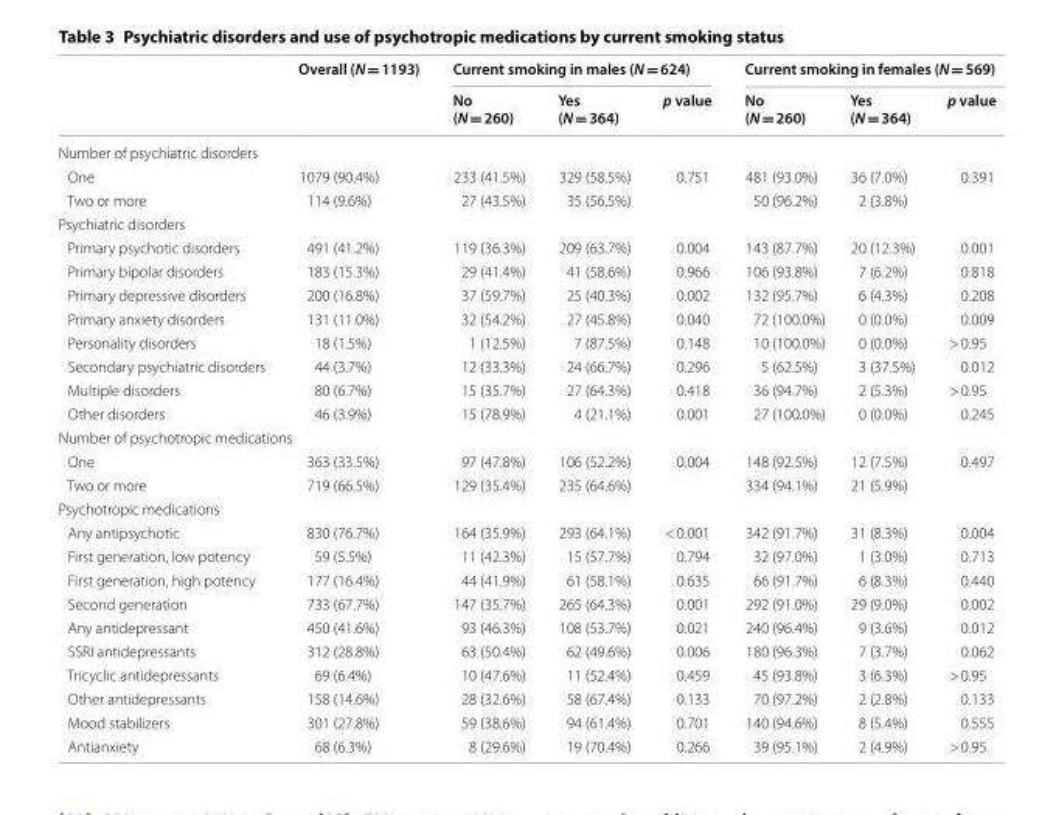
<table><thead><tr><td rowspan="2"></td><td rowspan="2">Overall (N = 1193)</td><td colspan="3">Current smoking in males (N = 624)</td><td colspan="3">Current smoking in females (N = 569)</td></tr><tr><td>No (N = 260)</td><td>Yes (N = 364)</td><td>p value</td><td>No (N = 260)</td><td>Yes (N = 364)</td><td>p value</td></tr></thead><tbody><tr><td colspan="8">Number of psychiatric disorders</td></tr><tr><td>One</td><td>1079 (90.4%)</td><td>233 (41.5%)</td><td>329 (58.5%)</td><td>0.751</td><td>481 (93.0%)</td><td>36 (7.0%)</td><td>0.391</td></tr><tr><td>Two or more</td><td>114 (9.6%)</td><td>27 (43.5%)</td><td>35 (56.5%)</td><td></td><td>50 (96.2%)</td><td>2 (3.8%)</td><td></td></tr><tr><td colspan="8">Psychiatric disorders</td></tr><tr><td>Primary psychotic disorders</td><td>491 (41.2%)</td><td>119 (36.3%)</td><td>209 (63.7%)</td><td>0.004</td><td>143 (87.7%)</td><td>20 (12.3%)</td><td>0.001</td></tr><tr><td>Primary bipolar disorders</td><td>183 (15.3%)</td><td>29 (41.4%)</td><td>41 (58.6%)</td><td>0.966</td><td>106 (93.8%)</td><td>7 (6.2%)</td><td>0.818</td></tr><tr><td>Primary depressive disorders</td><td>200 (16.8%)</td><td>37 (59.7%)</td><td>25 (40.3%)</td><td>0.002</td><td>132 (95.7%)</td><td>6 (4.3%)</td><td>0.208</td></tr><tr><td>Primary anxiety disorders</td><td>131 (11.0%)</td><td>32 (54.2%)</td><td>27 (45.8%)</td><td>0.040</td><td>72 (100.0%)</td><td>0 (0.0%)</td><td>0.009</td></tr><tr><td>Personality disorders</td><td>18 (1.5%)</td><td>1 (12.5%)</td><td>7 (87.5%)</td><td>0.148</td><td>10 (100.0%)</td><td>0 (0.0%)</td><td>&gt; 0.95</td></tr><tr><td>Secondary psychiatric disorders</td><td>44 (3.7%)</td><td>12 (33.3%)</td><td>24 (66.7%)</td><td>0.296</td><td>5 (62.5%)</td><td>3 (37.5%)</td><td>0.012</td></tr><tr><td>Multiple disorders</td><td>80 (6.7%)</td><td>15 (35.7%)</td><td>27 (64.3%)</td><td>0.418</td><td>36 (94.7%)</td><td>2 (5.3%)</td><td>&gt; 0.95</td></tr><tr><td>Other disorders</td><td>46 (3.9%)</td><td>15 (78.9%)</td><td>4 (21.1%)</td><td>0.001</td><td>27 (100.0%)</td><td>0 (0.0%)</td><td>0.245</td></tr><tr><td colspan="8">Number of psychotropic medications</td></tr><tr><td>One</td><td>363 (33.5%)</td><td>97 (47.8%)</td><td>106 (52.2%)</td><td>0.004</td><td>148 (92.5%)</td><td>12 (7.5%)</td><td>0.497</td></tr><tr><td>Two or more</td><td>719 (66.5%)</td><td>129 (35.4%)</td><td>235 (64.6%)</td><td></td><td>334 (94.1%)</td><td>21 (5.9%)</td><td></td></tr><tr><td colspan="8">Psychotropic medications</td></tr><tr><td>Any antipsychotic</td><td>830 (76.7%)</td><td>164 (35.9%)</td><td>293 (64.1%)</td><td>&lt; 0.001</td><td>342 (91.7%)</td><td>31 (8.3%)</td><td>0.004</td></tr><tr><td>First generation, low potency</td><td>59 (5.5%)</td><td>11 (42.3%)</td><td>15 (57.7%)</td><td>0.794</td><td>32 (97.0%)</td><td>1 (3.0%)</td><td>0.713</td></tr><tr><td>First generation, high potency</td><td>177 (16.4%)</td><td>44 (41.9%)</td><td>61 (58.1%)</td><td>0.635</td><td>66 (91.7%)</td><td>6 (8.3%)</td><td>0.440</td></tr><tr><td>Second generation</td><td>733 (67.7%)</td><td>147 (35.7%)</td><td>265 (64.3%)</td><td>0.001</td><td>292 (91.0%)</td><td>29 (9.0%)</td><td>0.002</td></tr><tr><td>Any antidepressant</td><td>450 (41.6%)</td><td>93 (46.3%)</td><td>108 (53.7%)</td><td>0.021</td><td>240 (96.4%)</td><td>9 (3.6%)</td><td>0.012</td></tr><tr><td>SSRI antidepressants</td><td>312 (28.8%)</td><td>63 (50.4%)</td><td>62 (49.6%)</td><td>0.006</td><td>180 (96.3%)</td><td>7 (3.7%)</td><td>0.062</td></tr><tr><td>Tricyclic antidepressants</td><td>69 (6.4%)</td><td>10 (47.6%)</td><td>11 (52.4%)</td><td>0.459</td><td>45 (93.8%)</td><td>3 (6.3%)</td><td>&gt; 0.95</td></tr><tr><td>Other antidepressants</td><td>158 (14.6%)</td><td>28 (32.6%)</td><td>58 (67.4%)</td><td>0.133</td><td>70 (97.2%)</td><td>2 (2.8%)</td><td>0.133</td></tr><tr><td>Mood stabilizers</td><td>301 (27.8%)</td><td>59 (38.6%)</td><td>94 (61.4%)</td><td>0.701</td><td>140 (94.6%)</td><td>8 (5.4%)</td><td>0.555</td></tr><tr><td>Antianxiety</td><td>68 (6.3%)</td><td>8 (29.6%)</td><td>19 (70.4%)</td><td>0.266</td><td>39 (95.1%)</td><td>2 (4.9%)</td><td>&gt; 0.95</td></tr></tbody></table>